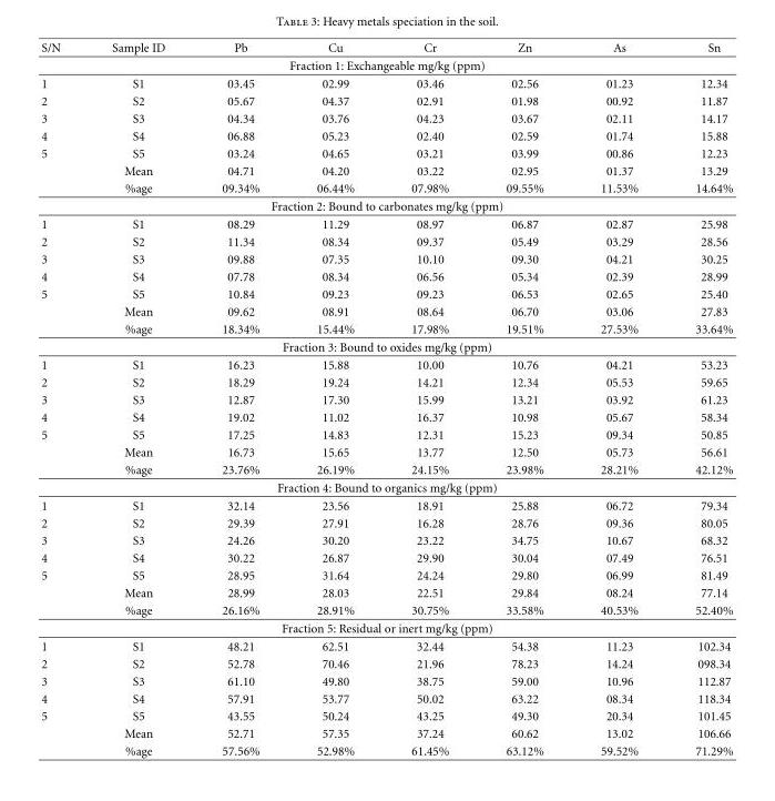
<table><thead><tr><td>S/N</td><td>Sample ID</td><td>Pb</td><td>Cu</td><td>Cr</td><td>Zn</td><td>As</td><td>Sn</td></tr></thead><tbody><tr><td colspan="8">Fraction 1: Exchangeable mg/kg (ppm)</td></tr><tr><td>1</td><td>S1</td><td>03.45</td><td>02.99</td><td>03.46</td><td>02.56</td><td>01.23</td><td>12.34</td></tr><tr><td>2</td><td>S2</td><td>05.67</td><td>04.37</td><td>02.91</td><td>01.98</td><td>00.92</td><td>11.87</td></tr><tr><td>3</td><td>S3</td><td>04.34</td><td>03.76</td><td>04.23</td><td>03.67</td><td>02.11</td><td>14.17</td></tr><tr><td>4</td><td>S4</td><td>06.88</td><td>05.23</td><td>02.40</td><td>02.59</td><td>01.74</td><td>15.88</td></tr><tr><td rowspan="3">5</td><td>S5</td><td>03.24</td><td>04.65</td><td>03.21</td><td>03.99</td><td>00.86</td><td>12.23</td></tr><tr><td>Mean</td><td>04.71</td><td>04.20</td><td>03.22</td><td>02.95</td><td>01.37</td><td>13.29</td></tr><tr><td>%age</td><td>09.34%</td><td>06.44%</td><td>07.98%</td><td>09.55%</td><td>11.53%</td><td>14.64%</td></tr><tr><td colspan="8">Fraction 2: Bound to carbonates mg/kg (ppm)</td></tr><tr><td>1</td><td>S1</td><td>08.29</td><td>11.29</td><td>08.97</td><td>06.87</td><td>02.87</td><td>25.98</td></tr><tr><td>2</td><td>S2</td><td>11.34</td><td>08.34</td><td>09.37</td><td>05.49</td><td>03.29</td><td>28.56</td></tr><tr><td>3</td><td>S3</td><td>09.88</td><td>07.35</td><td>10.10</td><td>09.30</td><td>04.21</td><td>30.25</td></tr><tr><td>4</td><td>S4</td><td>07.78</td><td>08.34</td><td>06.56</td><td>05.34</td><td>02.39</td><td>28.99</td></tr><tr><td rowspan="3">5</td><td>S5</td><td>10.84</td><td>09.23</td><td>09.23</td><td>06.53</td><td>02.65</td><td>25.40</td></tr><tr><td>Mean</td><td>09.62</td><td>08.91</td><td>08.64</td><td>06.70</td><td>03.06</td><td>27.83</td></tr><tr><td>%age</td><td>18.34%</td><td>15.44%</td><td>17.98%</td><td>19.51%</td><td>27.53%</td><td>33.64%</td></tr><tr><td colspan="8">Fraction 3: Bound to oxides mg/kg (ppm)</td></tr><tr><td>1</td><td>S1</td><td>16.23</td><td>15.88</td><td>10.00</td><td>10.76</td><td>04.21</td><td>53.23</td></tr><tr><td>2</td><td>S2</td><td>18.29</td><td>19.24</td><td>14.21</td><td>12.34</td><td>05.53</td><td>59.65</td></tr><tr><td>3</td><td>S3</td><td>12.87</td><td>17.30</td><td>15.99</td><td>13.21</td><td>03.92</td><td>61.23</td></tr><tr><td>4</td><td>S4</td><td>19.02</td><td>11.02</td><td>16.37</td><td>10.98</td><td>05.67</td><td>58.34</td></tr><tr><td rowspan="3">5</td><td>S5</td><td>17.25</td><td>14.83</td><td>12.31</td><td>15.23</td><td>09.34</td><td>50.85</td></tr><tr><td>Mean</td><td>16.73</td><td>15.65</td><td>13.77</td><td>12.50</td><td>05.73</td><td>56.61</td></tr><tr><td>%age</td><td>23.76%</td><td>26.19%</td><td>24.15%</td><td>23.98%</td><td>28.21%</td><td>42.12%</td></tr><tr><td colspan="8">Fraction 4: Bound to organics mg/kg (ppm)</td></tr><tr><td>1</td><td>S1</td><td>32.14</td><td>23.56</td><td>18.91</td><td>25.88</td><td>06.72</td><td>79.34</td></tr><tr><td>2</td><td>S2</td><td>29.39</td><td>27.91</td><td>16.28</td><td>28.76</td><td>09.36</td><td>80.05</td></tr><tr><td>3</td><td>S3</td><td>24.26</td><td>30.20</td><td>23.22</td><td>34.75</td><td>10.67</td><td>68.32</td></tr><tr><td>4</td><td>S4</td><td>30.22</td><td>26.87</td><td>29.90</td><td>30.04</td><td>07.49</td><td>76.51</td></tr><tr><td rowspan="3">5</td><td>S5</td><td>28.95</td><td>31.64</td><td>24.24</td><td>29.80</td><td>06.99</td><td>81.49</td></tr><tr><td>Mean</td><td>28.99</td><td>28.03</td><td>22.51</td><td>29.84</td><td>08.24</td><td>77.14</td></tr><tr><td>%age</td><td>26.16%</td><td>28.91%</td><td>30.75%</td><td>33.58%</td><td>40.53%</td><td>52.40%</td></tr><tr><td colspan="8">Fraction 5: Residual or inert mg/kg (ppm)</td></tr><tr><td>1</td><td>S1</td><td>48.21</td><td>62.51</td><td>32.44</td><td>54.38</td><td>11.23</td><td>102.34</td></tr><tr><td>2</td><td>S2</td><td>52.78</td><td>70.46</td><td>21.96</td><td>78.23</td><td>14.24</td><td>098.34</td></tr><tr><td>3</td><td>S3</td><td>61.10</td><td>49.80</td><td>38.75</td><td>59.00</td><td>10.96</td><td>112.87</td></tr><tr><td>4</td><td>S4</td><td>57.91</td><td>53.77</td><td>50.02</td><td>63.22</td><td>08.34</td><td>118.34</td></tr><tr><td rowspan="3">5</td><td>S5</td><td>43.55</td><td>50.24</td><td>43.25</td><td>49.30</td><td>20.34</td><td>101.45</td></tr><tr><td>Mean</td><td>52.71</td><td>57.35</td><td>37.24</td><td>60.62</td><td>13.02</td><td>106.66</td></tr><tr><td>%age</td><td>57.56%</td><td>52.98%</td><td>61.45%</td><td>63.12%</td><td>59.52%</td><td>71.29%</td></tr></tbody></table>